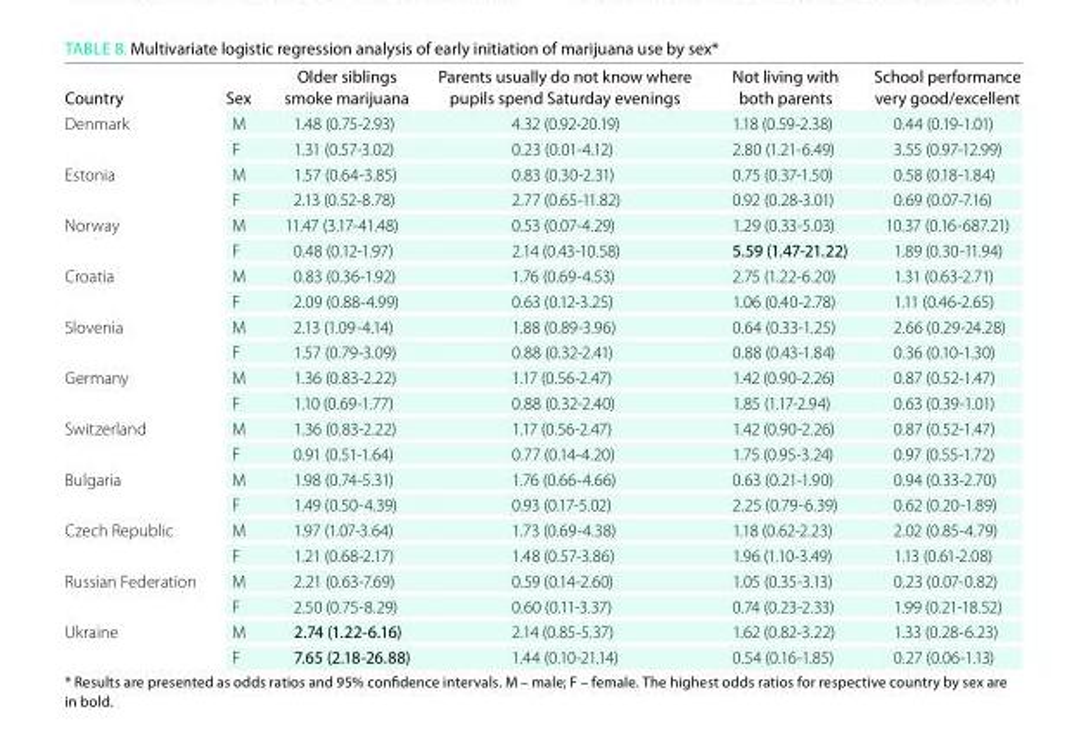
<table><thead><tr><td>Country</td><td>sex</td><td>older siblings smoke marijuana</td><td>Parents usually do not know where pupils spend saturday evenings</td><td>Not living with both parents</td><td>school performance very good/excellent</td></tr></thead><tbody><tr><td rowspan="2">Denmark</td><td>M</td><td>1.48 (0.75-2.93)</td><td>4.32 (0.92-20.19)</td><td>1.18 (0.59-2.38)</td><td>0.44 (0.19-1.01)</td></tr><tr><td>F</td><td>1.31 (0.57-3.02)</td><td>0.23 (0.01-4.12)</td><td>2.80 (1.21-6.49)</td><td>3.55 (0.97-12.99)</td></tr><tr><td rowspan="2">Estonia</td><td>M</td><td>1.57 (0.64-3.85)</td><td>0.83 (0.30-2.31)</td><td>0.75 (0.37-1.50)</td><td>0.58 (0.18-1.84)</td></tr><tr><td>F</td><td>2.13 (0.52-8.78)</td><td>2.77 (0.65-11.82)</td><td>0.92 (0.28-3.01)</td><td>0.69 (0.07-7.16)</td></tr><tr><td rowspan="2">Norway</td><td>M</td><td>11.47 (3.17-41.48)</td><td>0.53 (0.07-4.29)</td><td>1.29 (0.33-5.03)</td><td>10.37 (0.16-687.21)</td></tr><tr><td>F</td><td>0.48 (0.12-1.97)</td><td>2.14 (0.43-10.58)</td><td>5.59 (1.47-21.22)</td><td>1.89 (0.30-11.94)</td></tr><tr><td rowspan="2">Croatia</td><td>M</td><td>0.83 (0.36-1.92)</td><td>1.76 (0.69-4.53)</td><td>2.75 (1.22-6.20)</td><td>1.31 (0.63-2.71)</td></tr><tr><td>F</td><td>2.09 (0.88-4.99)</td><td>0.63 (0.12-3.25)</td><td>1.06 (0.40-2.78)</td><td>1.11 (0.46-2.65)</td></tr><tr><td rowspan="2">Slovenia</td><td>M</td><td>2.13 (1.09-4.14)</td><td>1.88 (0.89-3.96)</td><td>0.64 (0.33-1.25)</td><td>2.66 (0.29-24.28)</td></tr><tr><td>F</td><td>1.57 (0.79-3.09)</td><td>0.88 (0.32-2.41)</td><td>0.88 (0.43-1.84)</td><td>0.36 (0.10-1.30)</td></tr><tr><td rowspan="2">Germany</td><td>M</td><td>1.36 (0.83-2.22)</td><td>1.17 (0.56-2.47)</td><td>1.42 (0.90-2.26)</td><td>0.87 (0.52-1.47)</td></tr><tr><td>F</td><td>1.10 (0.69-1.77)</td><td>0.88 (0.32-2.40)</td><td>1.85 (1.17-2.94)</td><td>0.63 (0.39-1.01)</td></tr><tr><td rowspan="2">Switzerland</td><td>M</td><td>1.36 (0.83-2.22)</td><td>1.17 (0.56-2.47)</td><td>1.42 (0.90-2.26)</td><td>0.87 (0.52-1.47)</td></tr><tr><td>F</td><td>0.91 (0.51-1.64)</td><td>0.77 (0.14-4.20)</td><td>1.75 (0.95-3.24)</td><td>0.97 (0.55-1.72)</td></tr><tr><td rowspan="2">Bulgaria</td><td>M</td><td>1.98 (0.74-5.31)</td><td>1.76 (0.66-4.66)</td><td>0.63 (0.21-1.90)</td><td>0.94 (0.33-2.70)</td></tr><tr><td>F</td><td>1.49 (0.50-4.39)</td><td>0.93 (0.17-5.02)</td><td>2.25 (0.79-6.39)</td><td>0.62 (0.20-1.89)</td></tr><tr><td rowspan="2">Czech Republic</td><td>M</td><td>1.97 (1.07-3.64)</td><td>1.73 (0.69-4.38)</td><td>1.18 (0.62-2.23)</td><td>2.02 (0.85-4.79)</td></tr><tr><td>F</td><td>1.21 (0.68-2.17)</td><td>1.48 (0.57-3.86)</td><td>1.96 (1.10-3.49)</td><td>1.13 (0.61-2.08)</td></tr><tr><td rowspan="2">Russian Federation</td><td>M</td><td>2.21 (0.63-7.69)</td><td>0.59 (0.14-2.60)</td><td>1.05 (0.35-3.13)</td><td>0.23 (0.07-0.82)</td></tr><tr><td>F</td><td>2.50 (0.75-8.29)</td><td>0.60 (0.11-3.37)</td><td>0.74 (0.23-2.33)</td><td>1.99 (0.21-18.52)</td></tr><tr><td rowspan="2">Ukraine</td><td>M</td><td>2.74 (1.22-6.16)</td><td>2.14 (0.85-5.37)</td><td>1.62 (0.82-3.22)</td><td>1.33 (0.28-6.23)</td></tr><tr><td>F</td><td>7.65 (2.18-26.88)</td><td>1.44 (0.10-21.14)</td><td>0.54 (0.16-1.85)</td><td>0.27 (0.06-1.13)</td></tr></tbody></table>